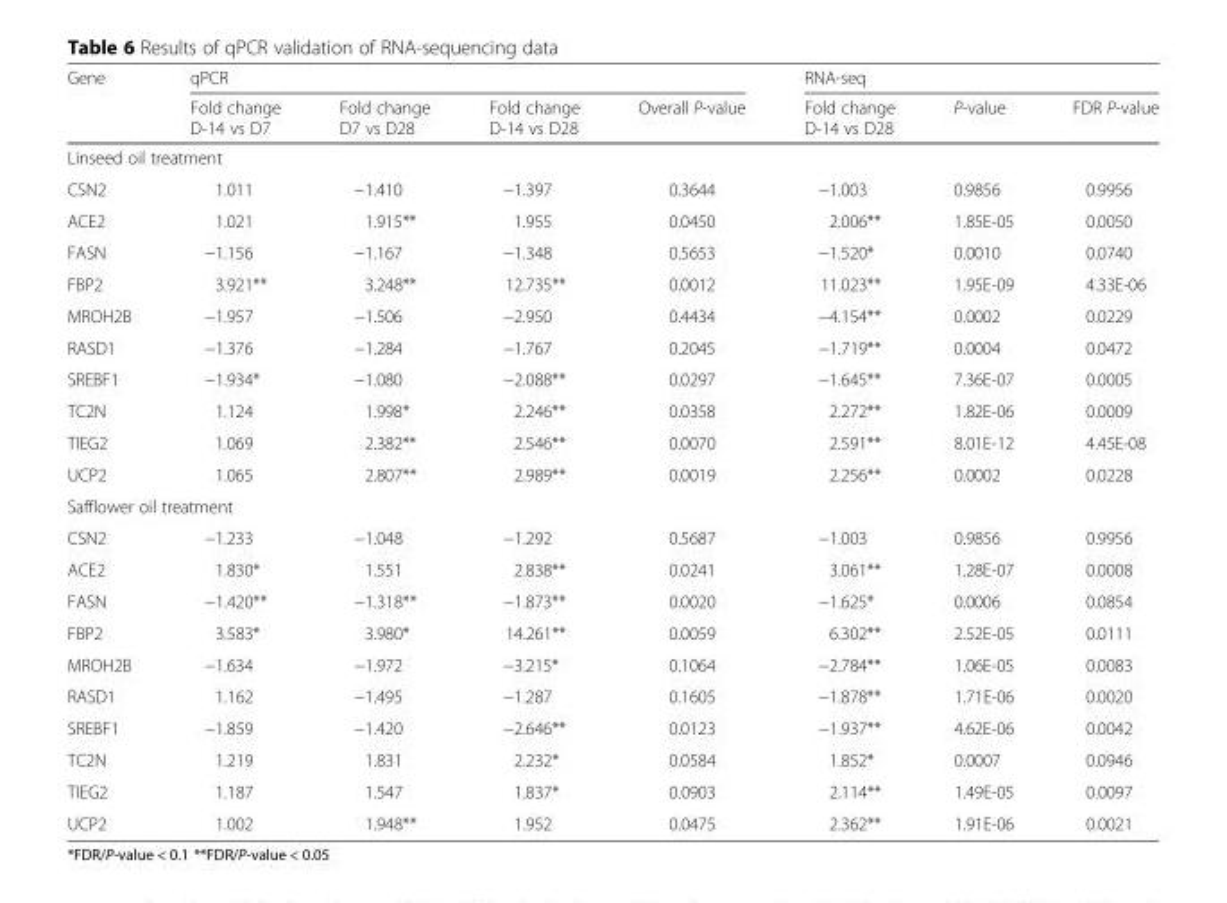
<table><thead><tr><td rowspan="2">Gene</td><td colspan="4">qPCR</td><td colspan="3">RNA-seq</td></tr><tr><td>Fold change D-14 vs D7</td><td>Fold change D7 vs D28</td><td>Fold change D-14 vs D28</td><td>Overall P-value</td><td>Fold change D-14 vs D28</td><td>P-value</td><td>FDR P-value</td></tr></thead><tbody><tr><td colspan="8">Linseed oil treatment</td></tr><tr><td>CSN2</td><td>1.011</td><td>−1.410</td><td>−1.397</td><td>0.3644</td><td>−1.003</td><td>0.9856</td><td>0.9956</td></tr><tr><td>ACE2</td><td>1.021</td><td>1.915**</td><td>1.955</td><td>0.0450</td><td>2.006**</td><td>1.85E-05</td><td>0.0050</td></tr><tr><td>FASN</td><td>−1.156</td><td>−1.167</td><td>−1.348</td><td>0.5653</td><td>−1.520*</td><td>0.0010</td><td>0.0740</td></tr><tr><td>FBP2</td><td>3.921**</td><td>3.248**</td><td>12.735**</td><td>0.0012</td><td>11.023**</td><td>1.95E-09</td><td>4.33E-06</td></tr><tr><td>MROH2B</td><td>−1.957</td><td>−1.506</td><td>−2.950</td><td>0.4434</td><td>−4.154**</td><td>0.0002</td><td>0.0229</td></tr><tr><td>RASD1</td><td>−1.376</td><td>−1.284</td><td>−1.767</td><td>0.2045</td><td>−1.719**</td><td>0.0004</td><td>0.0472</td></tr><tr><td>SREBF1</td><td>−1.934*</td><td>−1.080</td><td>−2.088**</td><td>0.0297</td><td>−1.645**</td><td>7.36E-07</td><td>0.0005</td></tr><tr><td>TC2N</td><td>1.124</td><td>1.998*</td><td>2.246**</td><td>0.0358</td><td>2.272**</td><td>1.82E-06</td><td>0.0009</td></tr><tr><td>TIEG2</td><td>1.069</td><td>2.382**</td><td>2.546**</td><td>0.0070</td><td>2.591**</td><td>8.01E-12</td><td>4.45E-08</td></tr><tr><td>UCP2</td><td>1.065</td><td>2.807**</td><td>2.989**</td><td>0.0019</td><td>2.256**</td><td>0.0002</td><td>0.0228</td></tr><tr><td colspan="8">Safflower oil treatment</td></tr><tr><td>CSN2</td><td>−1.233</td><td>−1.048</td><td>−1.292</td><td>0.5687</td><td>−1.003</td><td>0.9856</td><td>0.9956</td></tr><tr><td>ACE2</td><td>1.830*</td><td>1.551</td><td>2.838**</td><td>0.0241</td><td>3.061**</td><td>1.28E-07</td><td>0.0008</td></tr><tr><td>FASN</td><td>−1.420**</td><td>−1.318**</td><td>−1.873**</td><td>0.0020</td><td>−1.625*</td><td>0.0006</td><td>0.0854</td></tr><tr><td>FBP2</td><td>3.583*</td><td>3.980*</td><td>14.261**</td><td>0.0059</td><td>6.302**</td><td>2.52E-05</td><td>0.0111</td></tr><tr><td>MROH2B</td><td>−1.634</td><td>−1.972</td><td>−3.215*</td><td>0.1064</td><td>−2.784**</td><td>1.06E-05</td><td>0.0083</td></tr><tr><td>RASD1</td><td>1.162</td><td>−1.495</td><td>−1.287</td><td>0.1605</td><td>−1.878**</td><td>1.71E-06</td><td>0.0020</td></tr><tr><td>SREBF1</td><td>−1.859</td><td>−1.420</td><td>−2.646**</td><td>0.0123</td><td>−1.937**</td><td>4.62E-06</td><td>0.0042</td></tr><tr><td>TC2N</td><td>1.219</td><td>1.831</td><td>2.232*</td><td>0.0584</td><td>1.852*</td><td>0.0007</td><td>0.0946</td></tr><tr><td>TIEG2</td><td>1.187</td><td>1.547</td><td>1.837*</td><td>0.0903</td><td>2.114**</td><td>1.49E-05</td><td>0.0097</td></tr><tr><td>UCP2</td><td>1.002</td><td>1.948**</td><td>1.952</td><td>0.0475</td><td>2.362**</td><td>1.91E-06</td><td>0.0021</td></tr></tbody></table>